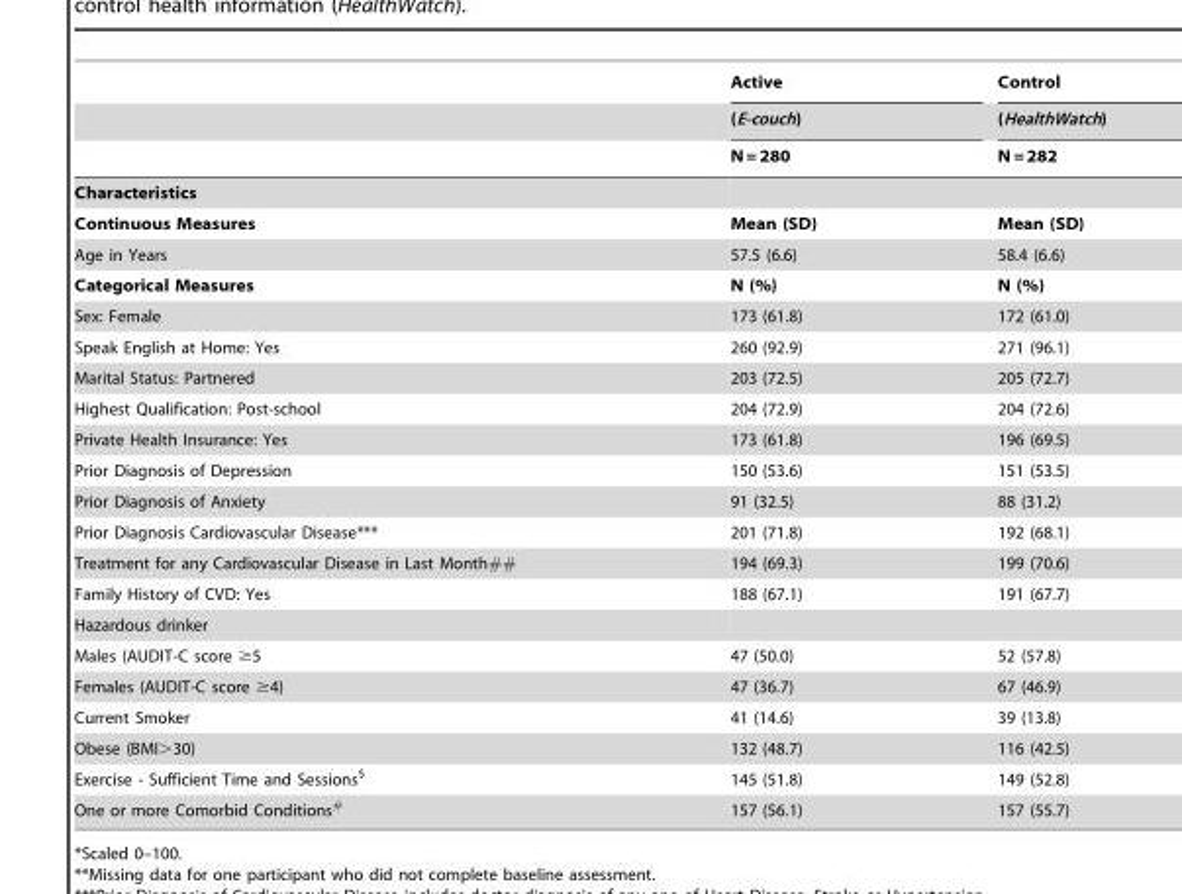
<table><thead><tr><td rowspan="3"></td><td rowspan="3">Active (E-couch) N = 280</td><td rowspan="3">Control (HealthWatch) N = 282</td></tr><tr></tr><tr></tr></thead><tbody><tr><td colspan="3">Characteristics</td></tr><tr><td>Continuous Measures</td><td>Mean (SD)</td><td>Mean (SD)</td></tr><tr><td>Age in Years</td><td>57.5 (6.6)</td><td>58.4 (6.6)</td></tr><tr><td>Categorical Measures</td><td>N (%)</td><td>N (%)</td></tr><tr><td>Sex: Female</td><td>173 (61.8)</td><td>172 (61.0)</td></tr><tr><td>Speak English at Home: Yes</td><td>260 (92.9)</td><td>271 (96.1)</td></tr><tr><td>Marital Status: Partnered</td><td>203 (72.5)</td><td>205 (72.7)</td></tr><tr><td>Highest Qualification: Post-school</td><td>204 (72.9)</td><td>204 (72.6)</td></tr><tr><td>Private Health Insurance: Yes</td><td>173 (61.8)</td><td>196 (69.5)</td></tr><tr><td>Prior Diagnosis of Depression</td><td>150 (53.6)</td><td>151 (53.5)</td></tr><tr><td>Prior Diagnosis of Anxiety</td><td>91 (32.5)</td><td>88 (31.2)</td></tr><tr><td>Prior Diagnosis Cardiovascular Disease***</td><td>201 (71.8)</td><td>192 (68.1)</td></tr><tr><td>Treatment for any Cardiovascular Disease in Last Month##</td><td>194 (69.3)</td><td>199 (70.6)</td></tr><tr><td>Family History of CVD: Yes</td><td>188 (67.1)</td><td>191 (67.7)</td></tr><tr><td colspan="3">Hazardous drinker</td></tr><tr><td>Males (AUDIT-C score ≥5</td><td>47 (50.0)</td><td>52 (57.8)</td></tr><tr><td>Females (AUDIT-C score ≥4)</td><td>47 (36.7)</td><td>67 (46.9)</td></tr><tr><td>Current Smoker</td><td>41 (14.6)</td><td>39 (13.8)</td></tr><tr><td>Obese (BMI&gt;30)</td><td>132 (48.7)</td><td>116 (42.5)</td></tr><tr><td>Exercise - Sufficient Time and Sessions$</td><td>145 (51.8)</td><td>149 (52.8)</td></tr><tr><td>One or more Comorbid Conditions#</td><td>157 (56.1)</td><td>157 (55.7)</td></tr></tbody></table>